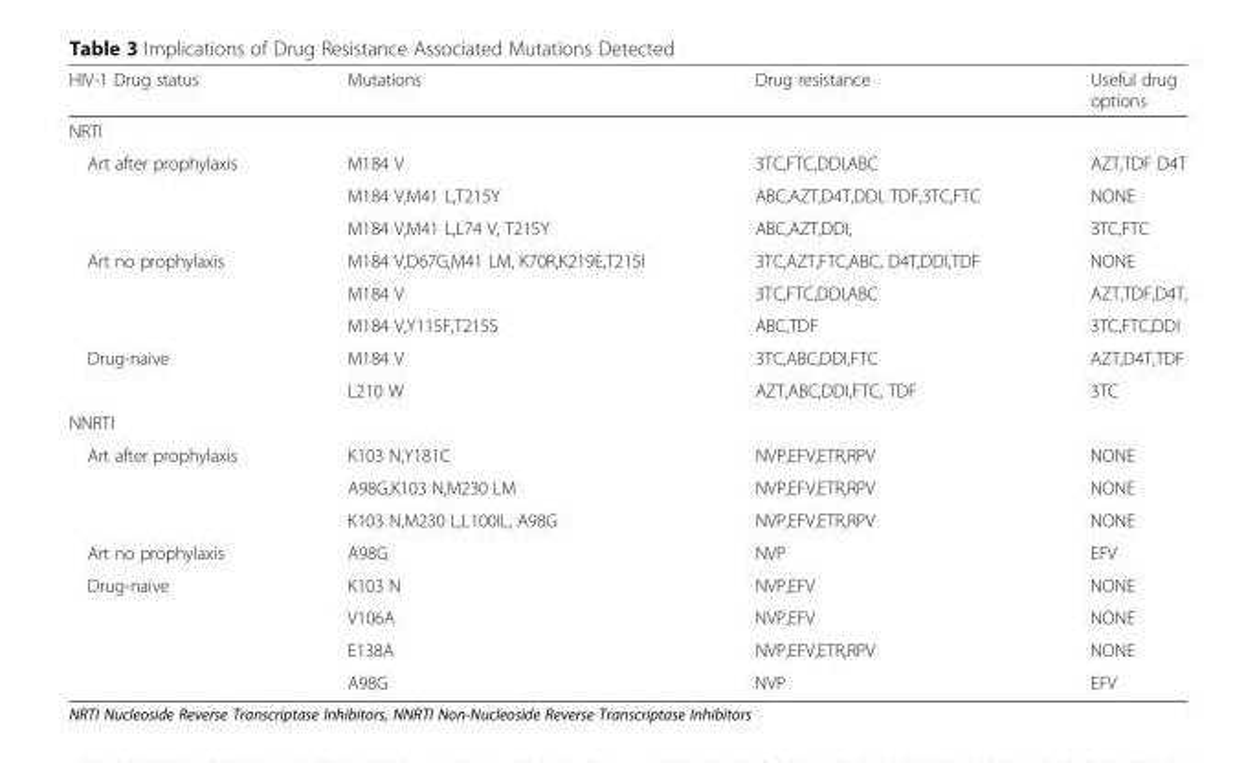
<table><thead><tr><td>HIV-1 Drug status</td><td>Mutations</td><td>Drug resistance</td><td>Useful drug options</td></tr></thead><tbody><tr><td colspan="4">NRTI</td></tr><tr><td rowspan="3">Art after prophylaxis</td><td>M184 V</td><td>3TC,FTC,DDI,ABC</td><td>AZT,TDF D4T</td></tr><tr><td>M184 V,M41 L,T215Y</td><td>ABC,AZT,D4T,DDI, TDF,3TC,FTC</td><td>NONE</td></tr><tr><td>M184 V,M41 L,L74 V, T215Y</td><td>ABC,AZT,DDI,</td><td>3TC,FTC</td></tr><tr><td rowspan="3">Art no prophylaxis</td><td>M184 V,D67G,M41 LM, K70R,K219E,T215I</td><td>3TC,AZT,FTC,ABC, D4T,DDI,TDF</td><td>NONE</td></tr><tr><td>M184 V</td><td>3TC,FTC,DDI,ABC</td><td>AZT,TDF,D4T,</td></tr><tr><td>M184 V,Y115F,T215S</td><td>ABC,TDF</td><td>3TC,FTC,DDI</td></tr><tr><td rowspan="2">Drug-naive</td><td>M184 V</td><td>3TC,ABC,DDI,FTC</td><td>AZT,D4T,TDF</td></tr><tr><td>L210 W</td><td>AZT,ABC,DDI,FTC, TDF</td><td>3TC</td></tr><tr><td colspan="4">NNRTI</td></tr><tr><td rowspan="3">Art after prophylaxis</td><td>K103 N,Y181C</td><td>NVP,EFV,ETR,RPV</td><td>NONE</td></tr><tr><td>A98G,K103 N,M230 LM</td><td>NVP,EFV,ETR,RPV</td><td>NONE</td></tr><tr><td>K103 N,M230 L,L100IL, A98G</td><td>NVP,EFV,ETR,RPV</td><td>NONE</td></tr><tr><td>Art no prophylaxis</td><td>A98G</td><td>NVP</td><td>EFV</td></tr><tr><td rowspan="4">Drug-naive</td><td>K103 N</td><td>NVP,EFV</td><td>NONE</td></tr><tr><td>V106A</td><td>NVP,EFV</td><td>NONE</td></tr><tr><td>E138A</td><td>NVP,EFV,ETR,RPV</td><td>NONE</td></tr><tr><td>A98G</td><td>NVP</td><td>EFV</td></tr></tbody></table>